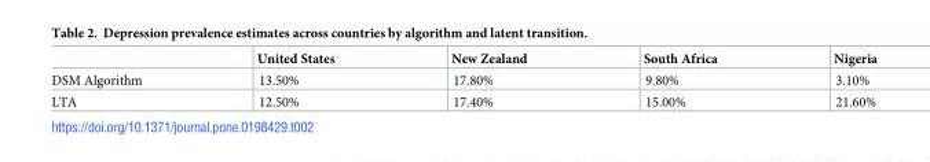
<table><thead><tr><td></td><td>United States</td><td>New Zealand</td><td>South Africa</td><td>Nigeria</td></tr></thead><tbody><tr><td>DSM Algorithm</td><td>13.50%</td><td>17.80%</td><td>9.80%</td><td>3.10%</td></tr><tr><td>LTA</td><td>12.50%</td><td>17.40%</td><td>15.00%</td><td>21.60%</td></tr></tbody></table>